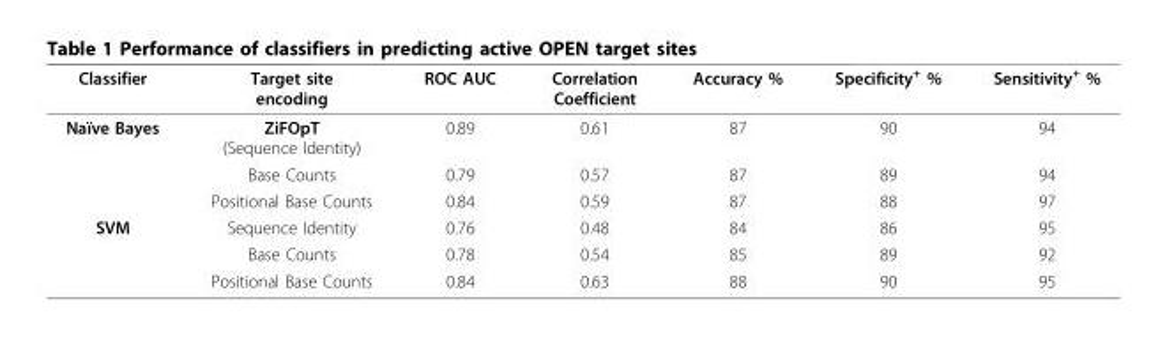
<table><thead><tr><td>Classifier</td><td>Target site encoding</td><td>ROC AUC</td><td>Correlation Coefficient</td><td>Accuracy %</td><td>Specificity<sup>+</sup> %</td><td>Sensitivity<sup>+</sup> %</td></tr></thead><tbody><tr><td rowspan="3">Naïve Bayes</td><td>ZiFOpT (Sequence Identity)</td><td>0.89</td><td>0.61</td><td>87</td><td>90</td><td>94</td></tr><tr><td>Base Counts</td><td>0.79</td><td>0.57</td><td>87</td><td>89</td><td>94</td></tr><tr><td>Positional Base Counts</td><td>0.84</td><td>0.59</td><td>87</td><td>88</td><td>97</td></tr><tr><td rowspan="3">SVM</td><td>Sequence Identity</td><td>0.76</td><td>0.48</td><td>84</td><td>86</td><td>95</td></tr><tr><td>Base Counts</td><td>0.78</td><td>0.54</td><td>85</td><td>89</td><td>92</td></tr><tr><td>Positional Base Counts</td><td>0.84</td><td>0.63</td><td>88</td><td>90</td><td>95</td></tr></tbody></table>